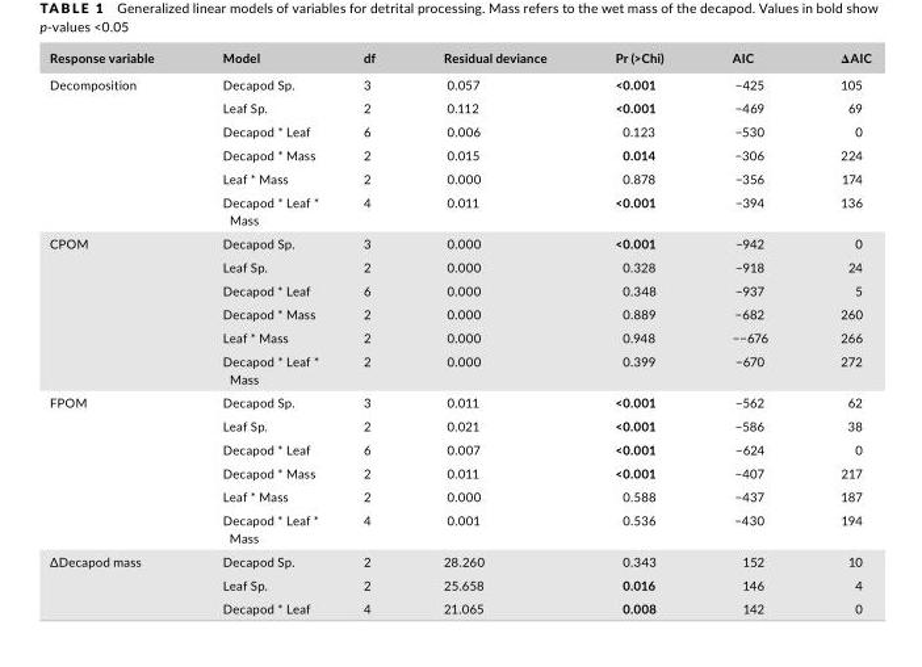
<table><thead><tr><td>Response variable</td><td>Model</td><td>df</td><td>Residual deviance</td><td>Pr (&gt;Chi)</td><td>AIC</td><td>ΔAIC</td></tr></thead><tbody><tr><td rowspan="6">Decomposition</td><td>Decapod Sp.</td><td>3</td><td>0.057</td><td>&lt;0.001</td><td>−425</td><td>105</td></tr><tr><td>Leaf Sp.</td><td>2</td><td>0.112</td><td>&lt;0.001</td><td>−469</td><td>69</td></tr><tr><td>Decapod * Leaf</td><td>6</td><td>0.006</td><td>0.123</td><td>−530</td><td>0</td></tr><tr><td>Decapod * Mass</td><td>2</td><td>0.015</td><td>0.014</td><td>−306</td><td>224</td></tr><tr><td>Leaf * Mass</td><td>2</td><td>0.000</td><td>0.878</td><td>−356</td><td>174</td></tr><tr><td>Decapod * Leaf * Mass</td><td>4</td><td>0.011</td><td>&lt;0.001</td><td>−394</td><td>136</td></tr><tr><td rowspan="6">CPOM</td><td>Decapod Sp.</td><td>3</td><td>0.000</td><td>&lt;0.001</td><td>−942</td><td>0</td></tr><tr><td>Leaf Sp.</td><td>2</td><td>0.000</td><td>0.328</td><td>−918</td><td>24</td></tr><tr><td>Decapod * Leaf</td><td>6</td><td>0.000</td><td>0.348</td><td>−937</td><td>5</td></tr><tr><td>Decapod * Mass</td><td>2</td><td>0.000</td><td>0.889</td><td>−682</td><td>260</td></tr><tr><td>Leaf * Mass</td><td>2</td><td>0.000</td><td>0.948</td><td>−−676</td><td>266</td></tr><tr><td>Decapod * Leaf * Mass</td><td>2</td><td>0.000</td><td>0.399</td><td>−670</td><td>272</td></tr><tr><td rowspan="6">FPOM</td><td>Decapod Sp.</td><td>3</td><td>0.011</td><td>&lt;0.001</td><td>−562</td><td>62</td></tr><tr><td>Leaf Sp.</td><td>2</td><td>0.021</td><td>&lt;0.001</td><td>−586</td><td>38</td></tr><tr><td>Decapod * Leaf</td><td>6</td><td>0.007</td><td>&lt;0.001</td><td>−624</td><td>0</td></tr><tr><td>Decapod * Mass</td><td>2</td><td>0.011</td><td>&lt;0.001</td><td>−407</td><td>217</td></tr><tr><td>Leaf * Mass</td><td>2</td><td>0.000</td><td>0.588</td><td>−437</td><td>187</td></tr><tr><td>Decapod * Leaf * Mass</td><td>4</td><td>0.001</td><td>0.536</td><td>−430</td><td>194</td></tr><tr><td rowspan="3">∆Decapod mass</td><td>Decapod Sp.</td><td>2</td><td>28.260</td><td>0.343</td><td>152</td><td>10</td></tr><tr><td>Leaf Sp.</td><td>2</td><td>25.658</td><td>0.016</td><td>146</td><td>4</td></tr><tr><td>Decapod * Leaf</td><td>4</td><td>21.065</td><td>0.008</td><td>142</td><td>0</td></tr></tbody></table>